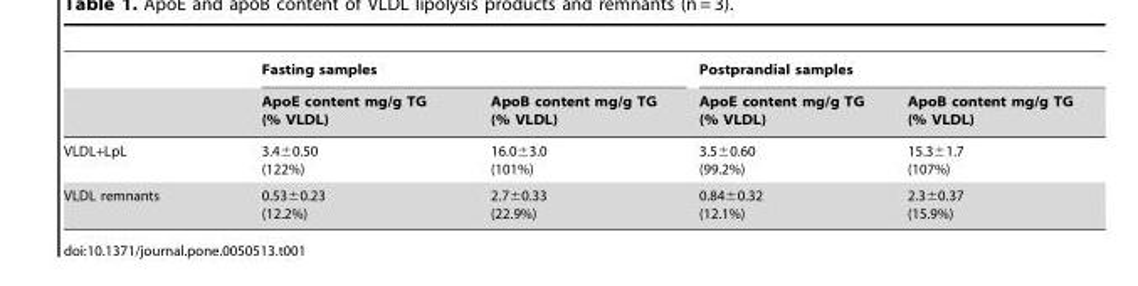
<table><thead><tr><td rowspan="2"></td><td colspan="2">Fasting samples</td><td colspan="2">Postprandial samples</td></tr><tr><td>ApoE content mg/g TG (% VLDL)</td><td>ApoB content mg/g TG (% VLDL)</td><td>ApoE content mg/g TG (% VLDL)</td><td>ApoB content mg/g TG (% VLDL)</td></tr></thead><tbody><tr><td>VLDL+LpL</td><td>3.4±0.50 (122%)</td><td>16.0±3.0 (101%)</td><td>3.5±0.60 (99.2%)</td><td>15.3±1.7 (107%)</td></tr><tr><td>VLDL remnants</td><td>0.53±0.23 (12.2%)</td><td>2.7±0.33 (22.9%)</td><td>0.84±0.32 (12.1%)</td><td>2.3±0.37 (15.9%)</td></tr></tbody></table>